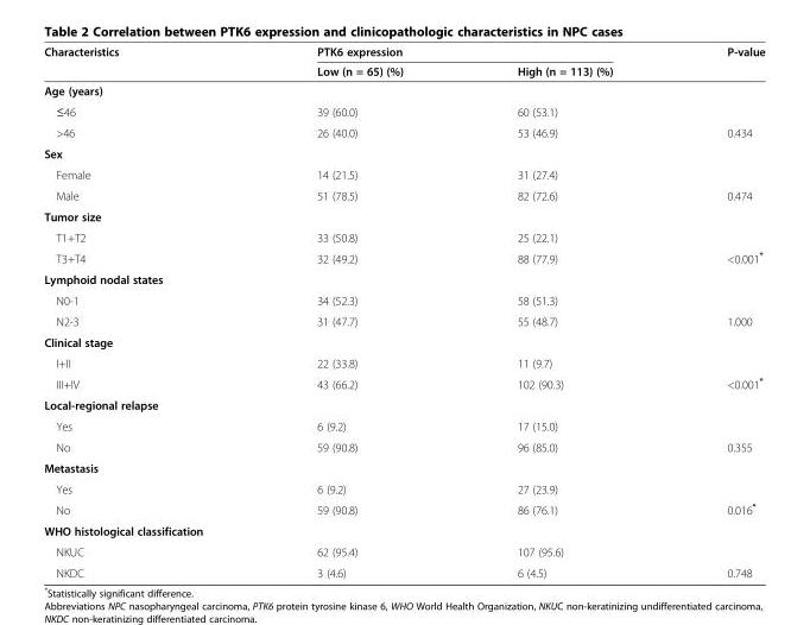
<table><thead><tr><td rowspan="2">Characteristics</td><td colspan="2">PTK6 expression</td><td rowspan="2">P-value</td></tr><tr><td>Low (n = 65) (%)</td><td>High (n = 113) (%)</td></tr></thead><tbody><tr><td colspan="4">Age (years)</td></tr><tr><td>≤46</td><td>39 (60.0)</td><td>60 (53.1)</td><td></td></tr><tr><td>&gt;46</td><td>26 (40.0)</td><td>53 (46.9)</td><td>0.434</td></tr><tr><td colspan="4">Sex</td></tr><tr><td>Female</td><td>14 (21.5)</td><td>31 (27.4)</td><td></td></tr><tr><td>Male</td><td>51 (78.5)</td><td>82 (72.6)</td><td>0.474</td></tr><tr><td colspan="4">Tumor size</td></tr><tr><td>T1+T2</td><td>33 (50.8)</td><td>25 (22.1)</td><td></td></tr><tr><td>T3+T4</td><td>32 (49.2)</td><td>88 (77.9)</td><td>&lt;0.001*</td></tr><tr><td colspan="4">Lymphoid nodal states</td></tr><tr><td>N0-1</td><td>34 (52.3)</td><td>58 (51.3)</td><td></td></tr><tr><td>N2-3</td><td>31 (47.7)</td><td>55 (48.7)</td><td>1.000</td></tr><tr><td colspan="4">Clinical stage</td></tr><tr><td>I+II</td><td>22 (33.8)</td><td>11 (9.7)</td><td></td></tr><tr><td>III+IV</td><td>43 (66.2)</td><td>102 (90.3)</td><td>&lt;0.001*</td></tr><tr><td colspan="4">Local-regional relapse</td></tr><tr><td>Yes</td><td>6 (9.2)</td><td>17 (15.0)</td><td></td></tr><tr><td>No</td><td>59 (90.8)</td><td>96 (85.0)</td><td>0.355</td></tr><tr><td colspan="4">Metastasis</td></tr><tr><td>Yes</td><td>6 (9.2)</td><td>27 (23.9)</td><td></td></tr><tr><td>No</td><td>59 (90.8)</td><td>86 (76.1)</td><td>0.016*</td></tr><tr><td colspan="4">WHO histological classification</td></tr><tr><td>NKUC</td><td>62 (95.4)</td><td>107 (95.6)</td><td></td></tr><tr><td>NKDC</td><td>3 (4.6)</td><td>6 (4.5)</td><td>0.748</td></tr></tbody></table>